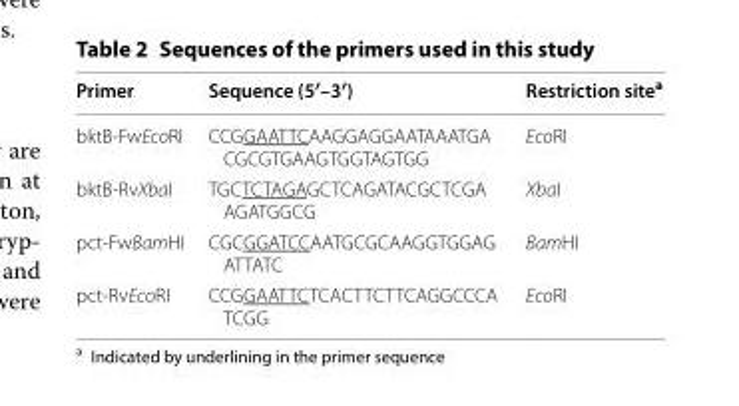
<table><thead><tr><td>Primer</td><td>Sequence (5′–3′)</td><td>Restriction site<sup>a</sup></td></tr></thead><tbody><tr><td>bktB-FwEcoRI</td><td>CCGGAATTCAAGGAGGAATAAATGA CGCGTGAAGTGGTAGTGG</td><td>EcoRI</td></tr><tr><td>bktB-RvXbaI</td><td>TGCTCTAGAGCTCAGATACGCTCGA AGATGGCG</td><td>XbaI</td></tr><tr><td>pct-FwBamHI</td><td>CGCGGATCCAATGCGCAAGGTGGAG ATTATC</td><td>BamHI</td></tr><tr><td>pct-RvEcoRI</td><td>CCGGAATTCTCACTTCTTCAGGCCCA TCGG</td><td>EcoRI</td></tr></tbody></table>